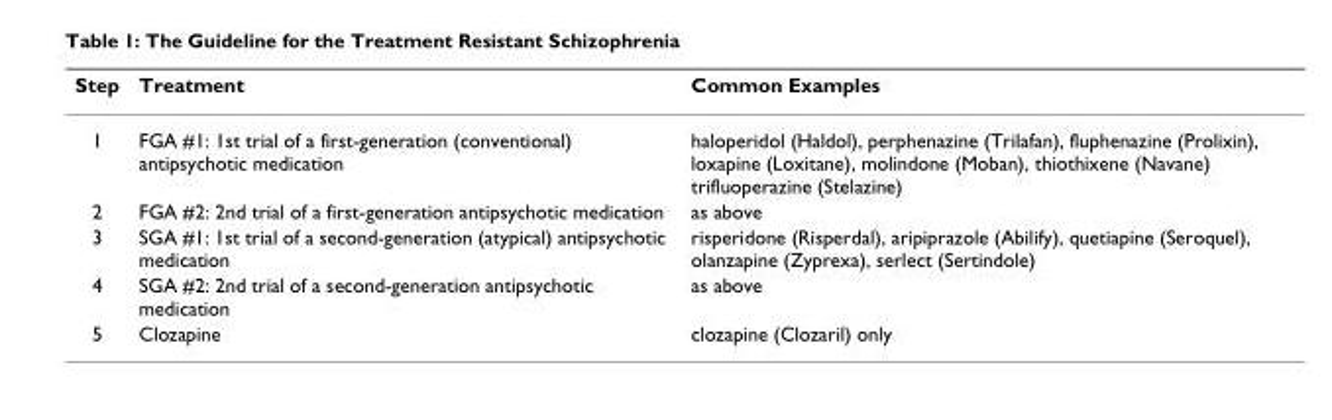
<table><thead><tr><td>Step</td><td>Treatment</td><td>Common Examples</td></tr></thead><tbody><tr><td>1</td><td>FGA #1: 1st trial of a first-generation (conventional) antipsychotic medication</td><td>haloperidol (Haldol), perphenazine (Trilafan), fluphenazine (Prolixin), loxapine (Loxitane), molindone (Moban), thiothixene (Navane) trifluoperazine (Stelazine)</td></tr><tr><td>2</td><td>FGA #2: 2nd trial of a first-generation antipsychotic medication</td><td>as above</td></tr><tr><td>3</td><td>SGA #1: 1st trial of a second-generation (atypical) antipsychotic medication</td><td>risperidone (Risperdal), aripiprazole (Abilify), quetiapine (Seroquel), olanzapine (Zyprexa), serlect (Sertindole)</td></tr><tr><td>4</td><td>SGA #2: 2nd trial of a second-generation antipsychotic medication</td><td>as above</td></tr><tr><td>5</td><td>Clozapine</td><td>clozapine (Clozaril) only</td></tr></tbody></table>